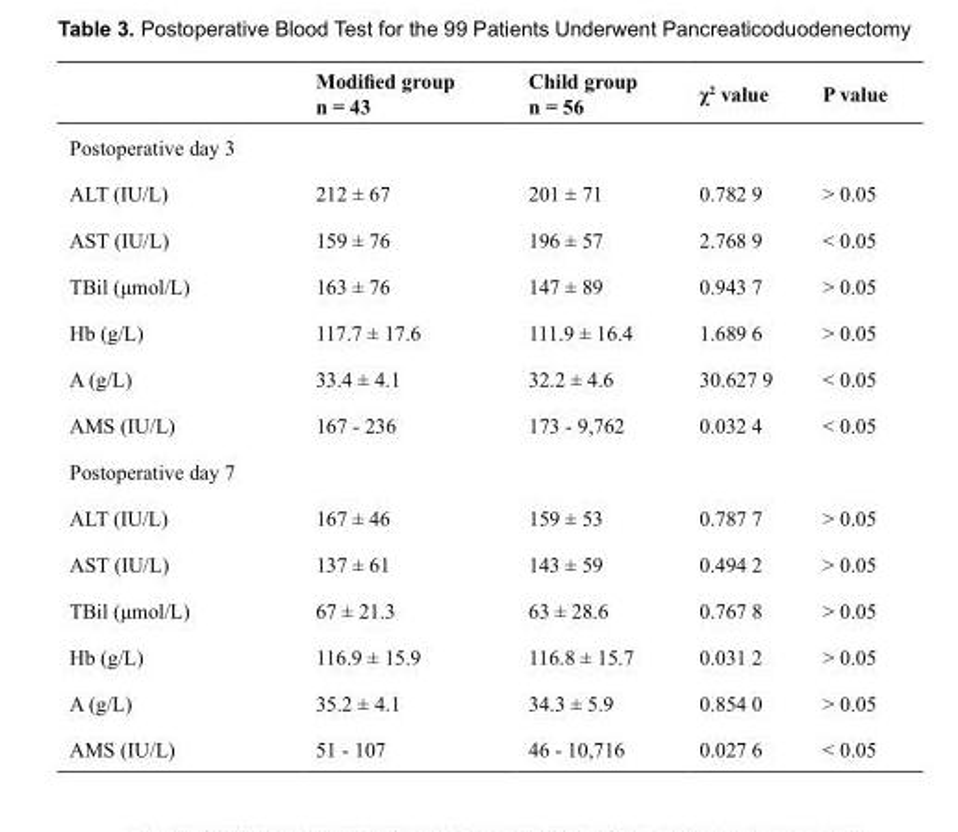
<table><thead><tr><td></td><td>Modified group n = 43</td><td>Child group n = 56</td><td>χ<sup>2</sup> value</td><td>P value</td></tr></thead><tbody><tr><td colspan="5">Postoperative day 3</td></tr><tr><td>ALT (IU/L)</td><td>212 ± 67</td><td>201 ± 71</td><td>0.782 9</td><td>&gt; 0.05</td></tr><tr><td>AST (IU/L)</td><td>159 ± 76</td><td>196 ± 57</td><td>2.768 9</td><td>&lt; 0.05</td></tr><tr><td>TBil (μmol/L)</td><td>163 ± 76</td><td>147 ± 89</td><td>0.943 7</td><td>&gt; 0.05</td></tr><tr><td>Hb (g/L)</td><td>117.7 ± 17.6</td><td>111.9 ± 16.4</td><td>1.689 6</td><td>&gt; 0.05</td></tr><tr><td>A (g/L)</td><td>33.4 ± 4.1</td><td>32.2 ± 4.6</td><td>30.627 9</td><td>&lt; 0.05</td></tr><tr><td>AMS (IU/L)</td><td>167 - 236</td><td>173 - 9,762</td><td>0.032 4</td><td>&lt; 0.05</td></tr><tr><td colspan="5">Postoperative day 7</td></tr><tr><td>ALT (IU/L)</td><td>167 ± 46</td><td>159 ± 53</td><td>0.787 7</td><td>&gt; 0.05</td></tr><tr><td>AST (IU/L)</td><td>137 ± 61</td><td>143 ± 59</td><td>0.494 2</td><td>&gt; 0.05</td></tr><tr><td>TBil (μmol/L)</td><td>67 ± 21.3</td><td>63 ± 28.6</td><td>0.767 8</td><td>&gt; 0.05</td></tr><tr><td>Hb (g/L)</td><td>116.9 ± 15.9</td><td>116.8 ± 15.7</td><td>0.031 2</td><td>&gt; 0.05</td></tr><tr><td>A (g/L)</td><td>35.2 ± 4.1</td><td>34.3 ± 5.9</td><td>0.854 0</td><td>&gt; 0.05</td></tr><tr><td>AMS (IU/L)</td><td>51 - 107</td><td>46 - 10,716</td><td>0.027 6</td><td>&lt; 0.05</td></tr></tbody></table>